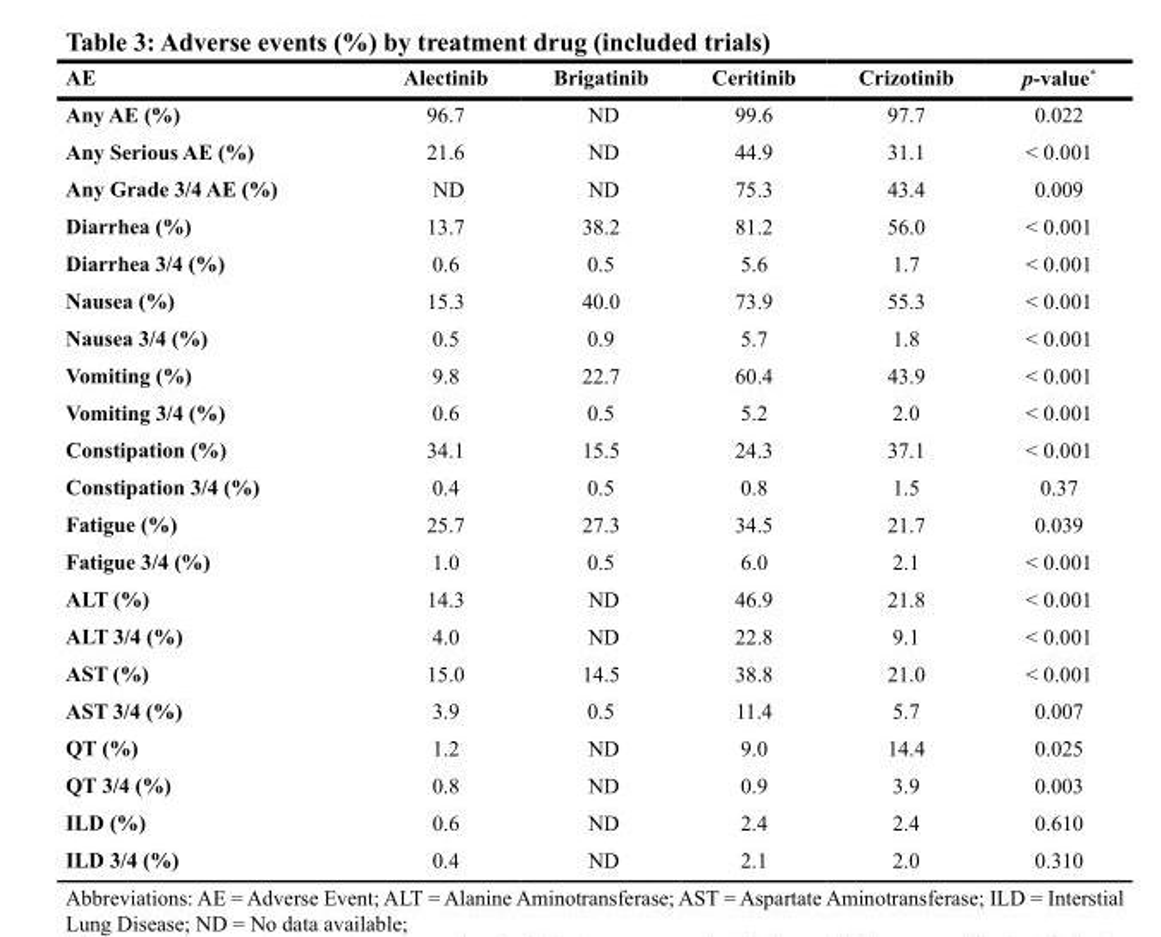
<table><thead><tr><td>AE</td><td>Alectinib</td><td>Brigatinib</td><td>Ceritinib</td><td>Crizotinib</td><td>p-value*</td></tr></thead><tbody><tr><td>Any AE (%)</td><td>96.7</td><td>ND</td><td>99.6</td><td>97.7</td><td>0.022</td></tr><tr><td>Any Serious AE (%)</td><td>21.6</td><td>ND</td><td>44.9</td><td>31.1</td><td>&lt; 0.001</td></tr><tr><td>Any Grade 3/4 AE (%)</td><td>ND</td><td>ND</td><td>75.3</td><td>43.4</td><td>0.009</td></tr><tr><td>Diarrhea (%)</td><td>13.7</td><td>38.2</td><td>81.2</td><td>56.0</td><td>&lt; 0.001</td></tr><tr><td>Diarrhea 3/4 (%)</td><td>0.6</td><td>0.5</td><td>5.6</td><td>1.7</td><td>&lt; 0.001</td></tr><tr><td>Nausea (%)</td><td>15.3</td><td>40.0</td><td>73.9</td><td>55.3</td><td>&lt; 0.001</td></tr><tr><td>Nausea 3/4 (%)</td><td>0.5</td><td>0.9</td><td>5.7</td><td>1.8</td><td>&lt; 0.001</td></tr><tr><td>Vomiting (%)</td><td>9.8</td><td>22.7</td><td>60.4</td><td>43.9</td><td>&lt; 0.001</td></tr><tr><td>Vomiting 3/4 (%)</td><td>0.6</td><td>0.5</td><td>5.2</td><td>2.0</td><td>&lt; 0.001</td></tr><tr><td>Constipation (%)</td><td>34.1</td><td>15.5</td><td>24.3</td><td>37.1</td><td>&lt; 0.001</td></tr><tr><td>Constipation 3/4 (%)</td><td>0.4</td><td>0.5</td><td>0.8</td><td>1.5</td><td>0.37</td></tr><tr><td>Fatigue (%)</td><td>25.7</td><td>27.3</td><td>34.5</td><td>21.7</td><td>0.039</td></tr><tr><td>Fatigue 3/4 (%)</td><td>1.0</td><td>0.5</td><td>6.0</td><td>2.1</td><td>&lt; 0.001</td></tr><tr><td>ALT (%)</td><td>14.3</td><td>ND</td><td>46.9</td><td>21.8</td><td>&lt; 0.001</td></tr><tr><td>ALT 3/4 (%)</td><td>4.0</td><td>ND</td><td>22.8</td><td>9.1</td><td>&lt; 0.001</td></tr><tr><td>AST (%)</td><td>15.0</td><td>14.5</td><td>38.8</td><td>21.0</td><td>&lt; 0.001</td></tr><tr><td>AST 3/4 (%)</td><td>3.9</td><td>0.5</td><td>11.4</td><td>5.7</td><td>0.007</td></tr><tr><td>QT (%)</td><td>1.2</td><td>ND</td><td>9.0</td><td>14.4</td><td>0.025</td></tr><tr><td>QT 3/4 (%)</td><td>0.8</td><td>ND</td><td>0.9</td><td>3.9</td><td>0.003</td></tr><tr><td>ILD (%)</td><td>0.6</td><td>ND</td><td>2.4</td><td>2.4</td><td>0.610</td></tr><tr><td>ILD 3/4 (%)</td><td>0.4</td><td>ND</td><td>2.1</td><td>2.0</td><td>0.310</td></tr></tbody></table>